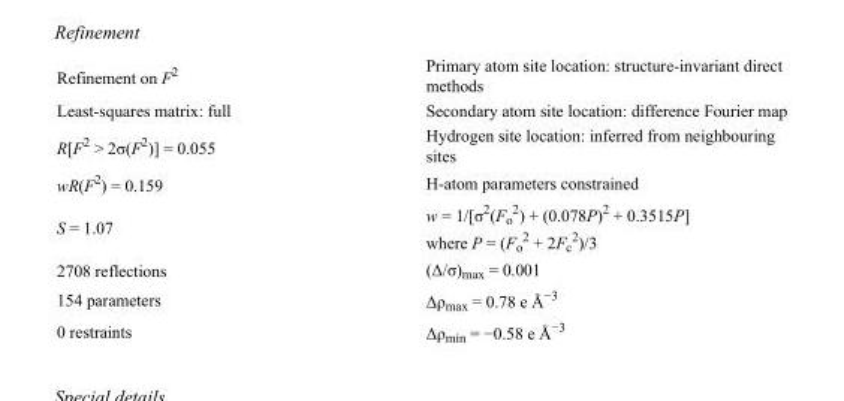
<table><tbody><tr><td>Refinement on F<sup>2</sup></td><td>Primary atom site location: structure-invariant direct methods</td></tr><tr><td>Least-squares matrix: full</td><td>Secondary atom site location: difference Fourier map</td></tr><tr><td>R[F<sup>2</sup> &gt; 2σ(F<sup>2</sup>)] = 0.055</td><td>Hydrogen site location: inferred from neighbouring sites</td></tr><tr><td>wR(F<sup>2</sup>) = 0.159</td><td>H-atom parameters constrained</td></tr><tr><td>S = 1.07</td><td>w = 1/[σ<sup>2</sup>(F<sub>o</sub> <sup>2</sup>) + (0.078P)<sup>2</sup> + 0.3515P] where P = (F<sub>o</sub> <sup>2</sup> + 2F<sub>c</sub> <sup>2</sup>)/3</td></tr><tr><td>2708 reflections</td><td>(Δ/σ)<sub>max</sub> = 0.001</td></tr><tr><td>154 parameters</td><td>Δρ<sub>max</sub> = 0.78 e Å<sup>−3</sup></td></tr><tr><td>0 restraints</td><td>Δρ<sub>min</sub> = −0.58 e Å<sup>−3</sup></td></tr></tbody></table>